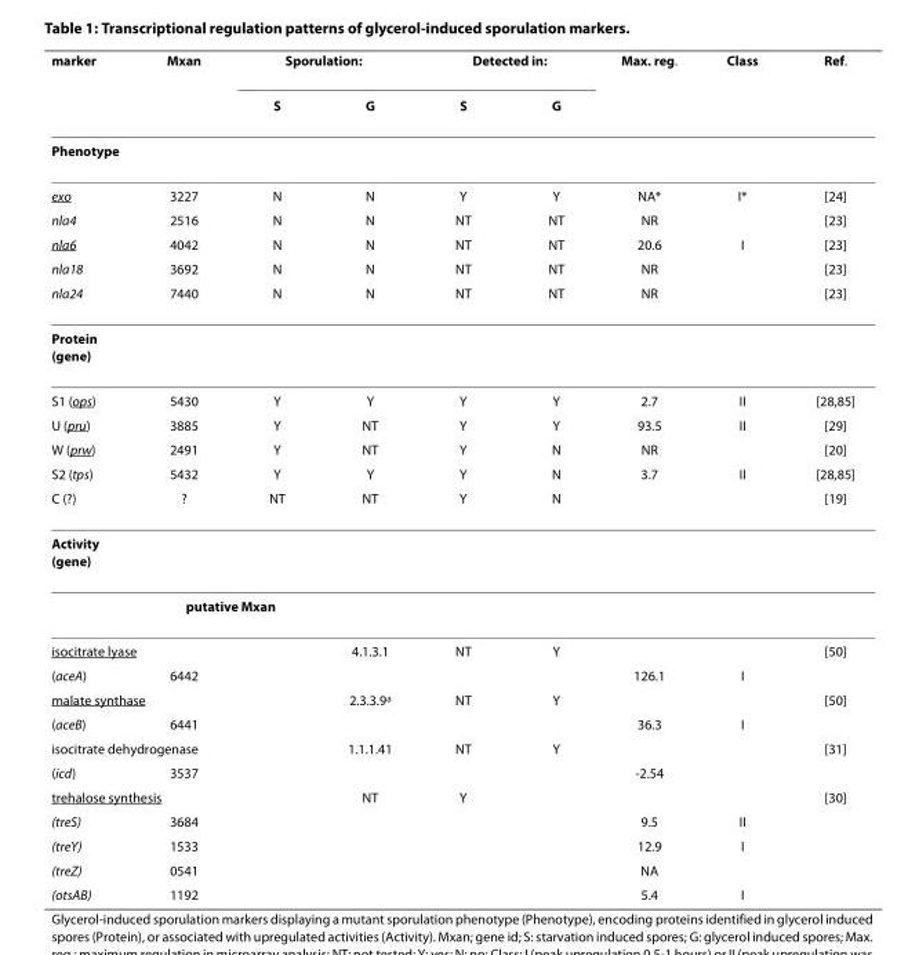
<table><thead><tr><td rowspan="2">marker</td><td rowspan="2">Mxan</td><td colspan="2">Sporulation:</td><td colspan="2">Detected in:</td><td rowspan="2">Max. reg.</td><td rowspan="2">Class</td><td rowspan="2">Ref.</td></tr><tr><td>S</td><td>G</td><td>S</td><td>G</td></tr></thead><tbody><tr><td colspan="9">Phenotype</td></tr><tr><td>exo</td><td>3227</td><td>N</td><td>N</td><td>Y</td><td>Y</td><td>NA*</td><td>I*</td><td>[24]</td></tr><tr><td>nla4</td><td>2516</td><td>N</td><td>N</td><td>NT</td><td>NT</td><td>NR</td><td></td><td>[23]</td></tr><tr><td>nla6</td><td>4042</td><td>N</td><td>N</td><td>NT</td><td>NT</td><td>20.6</td><td>I</td><td>[23]</td></tr><tr><td>nla18</td><td>3692</td><td>N</td><td>N</td><td>NT</td><td>NT</td><td>NR</td><td></td><td>[23]</td></tr><tr><td>nla24</td><td>7440</td><td>N</td><td>N</td><td>NT</td><td>NT</td><td>NR</td><td></td><td>[23]</td></tr><tr><td colspan="9">Protein (gene)</td></tr><tr><td>S1 (ops)</td><td>5430</td><td>Y</td><td>Y</td><td>Y</td><td>Y</td><td>2.7</td><td>II</td><td>[28,85]</td></tr><tr><td>U (pru)</td><td>3885</td><td>Y</td><td>NT</td><td>Y</td><td>Y</td><td>93.5</td><td>II</td><td>[29]</td></tr><tr><td>W (prw)</td><td>2491</td><td>Y</td><td>NT</td><td>Y</td><td>N</td><td>NR</td><td></td><td>[20]</td></tr><tr><td>S2 (tps)</td><td>5432</td><td>Y</td><td>Y</td><td>Y</td><td>N</td><td>3.7</td><td>II</td><td>[28,85]</td></tr><tr><td>C (?)</td><td>?</td><td>NT</td><td>NT</td><td>Y</td><td>N</td><td></td><td></td><td>[19]</td></tr><tr><td colspan="9">Activity (gene)</td></tr><tr><td></td><td colspan="2">putative Mxan</td><td></td><td></td><td></td><td></td><td></td><td></td></tr><tr><td colspan="3">isocitrate lyase</td><td>4.1.3.1</td><td>NT</td><td>Y</td><td></td><td></td><td>[50]</td></tr><tr><td>(aceA)</td><td>6442</td><td></td><td></td><td></td><td></td><td>126.1</td><td>I</td><td></td></tr><tr><td colspan="3">malate synthase</td><td>2.3.3.9<sup>a</sup></td><td>NT</td><td>Y</td><td></td><td></td><td>[50]</td></tr><tr><td>(aceB)</td><td>6441</td><td></td><td></td><td></td><td></td><td>36.3</td><td>I</td><td></td></tr><tr><td colspan="3">isocitrate dehydrogenase</td><td>1.1.1.41</td><td>NT</td><td>Y</td><td></td><td></td><td>[31]</td></tr><tr><td>(icd)</td><td>3537</td><td></td><td></td><td></td><td></td><td>-2.54</td><td></td><td></td></tr><tr><td colspan="3">trehalose synthesis</td><td>NT</td><td>Y</td><td></td><td></td><td></td><td>[30]</td></tr><tr><td>(treS)</td><td>3684</td><td></td><td></td><td></td><td></td><td>9.5</td><td>II</td><td></td></tr><tr><td>(treY)</td><td>1533</td><td></td><td></td><td></td><td></td><td>12.9</td><td>I</td><td></td></tr><tr><td>(treZ)</td><td>0541</td><td></td><td></td><td></td><td></td><td>NA</td><td></td><td></td></tr><tr><td>(otsAB)</td><td>1192</td><td></td><td></td><td></td><td></td><td>5.4</td><td>I</td><td></td></tr></tbody></table>